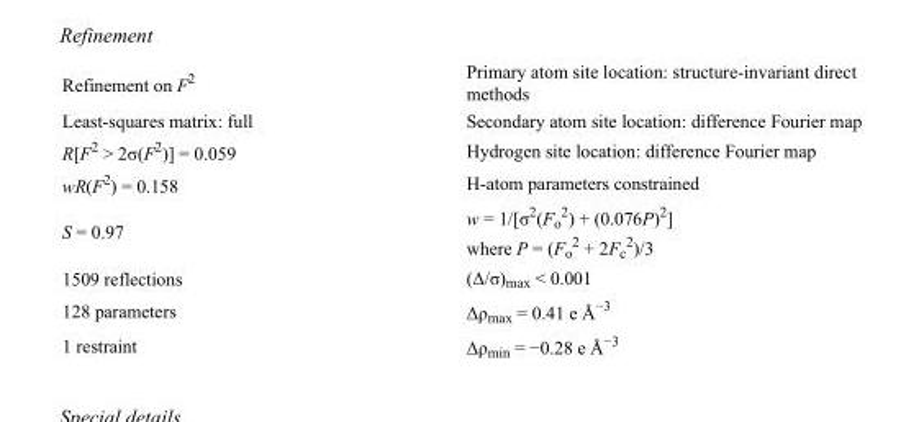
<table><tbody><tr><td>Refinement on F<sup>2</sup></td><td>Primary atom site location: structure-invariant direct methods</td></tr><tr><td>Least-squares matrix: full</td><td>Secondary atom site location: difference Fourier map</td></tr><tr><td>R[F<sup>2</sup> &gt; 2σ(F<sup>2</sup>)] = 0.059</td><td>Hydrogen site location: difference Fourier map</td></tr><tr><td>wR(F<sup>2</sup>) = 0.158</td><td>H-atom parameters constrained</td></tr><tr><td>S = 0.97</td><td>w = 1/[σ<sup>2</sup>(F<sub>o</sub> <sup>2</sup>) + (0.076P)<sup>2</sup>] where P = (F<sub>o</sub> <sup>2</sup> + 2F<sub>c</sub> <sup>2</sup>)/3</td></tr><tr><td>1509 reflections</td><td>(Δ/σ)<sub>max</sub> &lt; 0.001</td></tr><tr><td>128 parameters</td><td>Δρ<sub>max</sub> = 0.41 e Å<sup>−3</sup></td></tr><tr><td>1 restraint</td><td>Δρ<sub>min</sub> = −0.28 e Å<sup>−3</sup></td></tr></tbody></table>